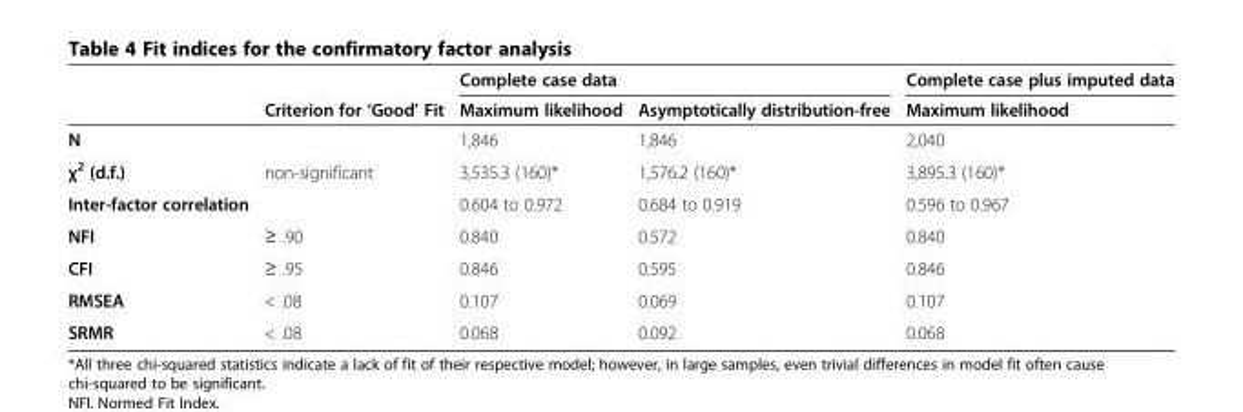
<table><thead><tr><td rowspan="2"></td><td rowspan="2">Criterion for ‘Good’ Fit</td><td colspan="2">Complete case data</td><td rowspan="2">Complete case plus imputed data Maximum likelihood</td></tr><tr><td>Maximum likelihood</td><td>Asymptotically distribution-free</td></tr></thead><tbody><tr><td>N</td><td></td><td>1,846</td><td>1,846</td><td>2,040</td></tr><tr><td>χ<sup>2</sup> (d.f.)</td><td>non-significant</td><td>3,535.3 (160)*</td><td>1,576.2 (160)*</td><td>3,895.3 (160)*</td></tr><tr><td>Inter-factor correlation</td><td></td><td>0.604 to 0.972</td><td>0.684 to 0.919</td><td>0.596 to 0.967</td></tr><tr><td>NFI</td><td>≥ .90</td><td>0.840</td><td>0.572</td><td>0.840</td></tr><tr><td>CFI</td><td>≥ .95</td><td>0.846</td><td>0.595</td><td>0.846</td></tr><tr><td>RMSEA</td><td>&lt; .08</td><td>0.107</td><td>0.069</td><td>0.107</td></tr><tr><td>SRMR</td><td>&lt; .08</td><td>0.068</td><td>0.092</td><td>0.068</td></tr></tbody></table>